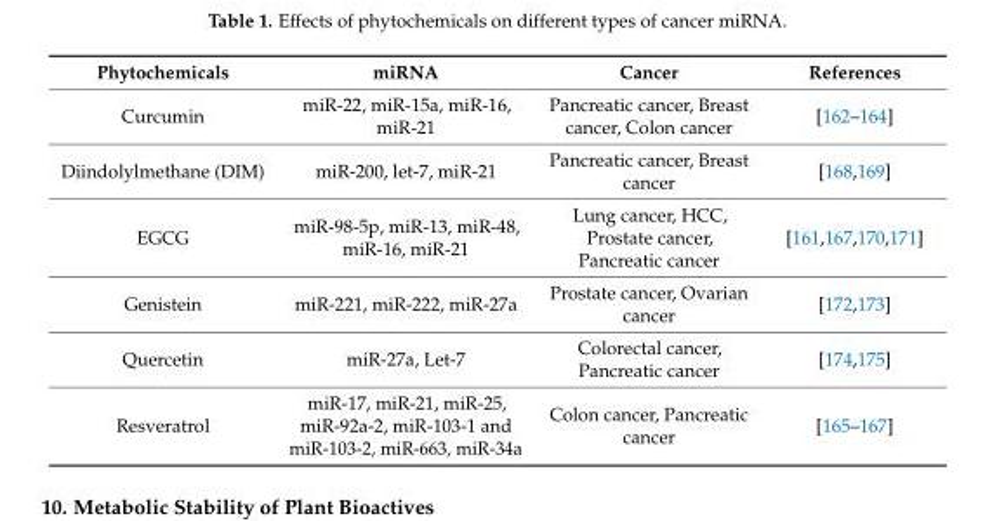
<table><thead><tr><td>Phytochemicals</td><td>miRNA</td><td>Cancer</td><td>References</td></tr></thead><tbody><tr><td>Curcumin</td><td>miR-22, miR-15a, miR-16, miR-21</td><td>Pancreatic cancer, Breast cancer, Colon cancer</td><td>[162–164]</td></tr><tr><td>Diindolylmethane (DIM)</td><td>miR-200, let-7, miR-21</td><td>Pancreatic cancer, Breast cancer</td><td>[168,169]</td></tr><tr><td>EGCG</td><td>miR-98-5p, miR-13, miR-48, miR-16, miR-21</td><td>Lung cancer, HCC, Prostate cancer, Pancreatic cancer</td><td>[161,167,170,171]</td></tr><tr><td>Genistein</td><td>miR-221, miR-222, miR-27a</td><td>Prostate cancer, Ovarian cancer</td><td>[172,173]</td></tr><tr><td>Quercetin</td><td>miR-27a, Let-7</td><td>Colorectal cancer, Pancreatic cancer</td><td>[174,175]</td></tr><tr><td>Resveratrol</td><td>miR-17, miR-21, miR-25, miR-92a-2, miR-103-1 and miR-103-2, miR-663, miR-34a</td><td>Colon cancer, Pancreatic cancer</td><td>[165–167]</td></tr></tbody></table>